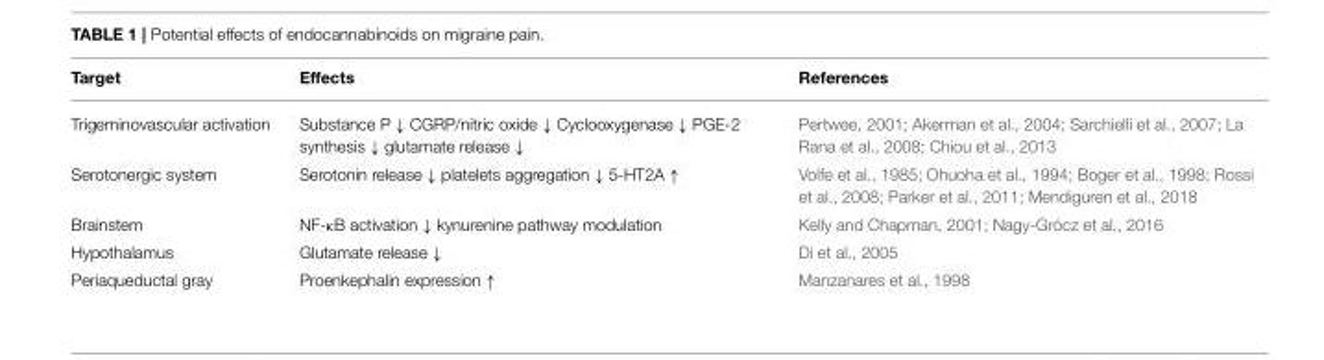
<table><thead><tr><td>Target</td><td>Effects</td><td>References</td></tr></thead><tbody><tr><td>Trigeminovascular activation</td><td>Substance P ↓ CGRP/nitric oxide ↓ Cyclooxygenase ↓ PGE-2 synthesis ↓ glutamate release ↓</td><td>Pertwee, 2001; Akerman et al., 2004; Sarchielli et al., 2007; La Rana et al., 2008; Chiou et al., 2013</td></tr><tr><td>Serotonergic system</td><td>Serotonin release ↓ platelets aggregation ↓ 5-HT2A ↑</td><td>Volfe et al., 1985; Ohuoha et al., 1994; Boger et al., 1998; Rossi et al., 2008; Parker et al., 2011; Mendiguren et al., 2018</td></tr><tr><td>Brainstem</td><td>NF-κB activation ↓ kynurenine pathway modulation</td><td>Kelly and Chapman, 2001; Nagy-Grócz et al., 2016</td></tr><tr><td>Hypothalamus</td><td>Glutamate release ↓</td><td>Di et al., 2005</td></tr><tr><td>Periaqueductal gray</td><td>Proenkephalin expression ↑</td><td>Manzanares et al., 1998</td></tr></tbody></table>